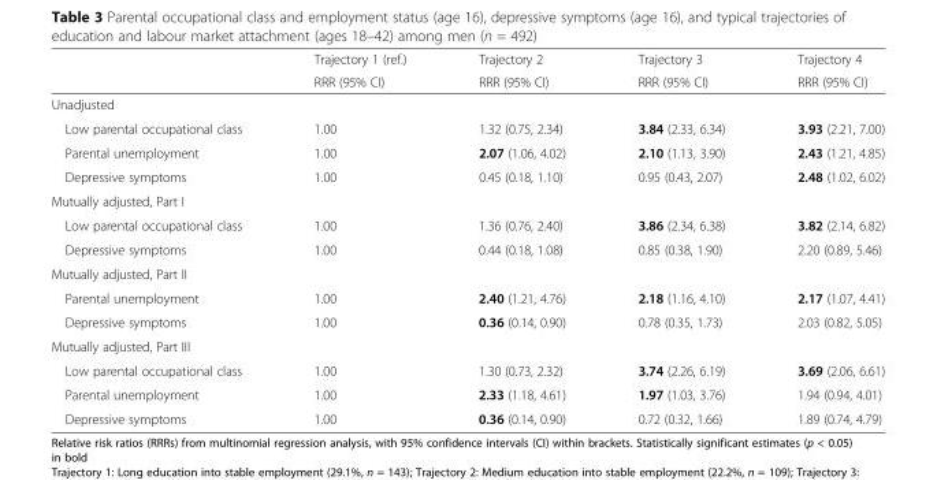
<table><thead><tr><td rowspan="2"></td><td rowspan="2">Trajectory 1 (ref.) RRR (95% CI)</td><td rowspan="2">Trajectory 2 RRR (95% CI)</td><td rowspan="2">Trajectory 3 RRR (95% CI)</td><td rowspan="2">Trajectory 4 RRR (95% CI)</td></tr><tr></tr></thead><tbody><tr><td colspan="5">Unadjusted</td></tr><tr><td>Low parental occupational class</td><td>1.00</td><td>1.32 (0.75, 2.34)</td><td>3.84 (2.33, 6.34)</td><td>3.93 (2.21, 7.00)</td></tr><tr><td>Parental unemployment</td><td>1.00</td><td>2.07 (1.06, 4.02)</td><td>2.10 (1.13, 3.90)</td><td>2.43 (1.21, 4.85)</td></tr><tr><td>Depressive symptoms</td><td>1.00</td><td>0.45 (0.18, 1.10)</td><td>0.95 (0.43, 2.07)</td><td>2.48 (1.02, 6.02)</td></tr><tr><td colspan="5">Mutually adjusted, Part I</td></tr><tr><td>Low parental occupational class</td><td>1.00</td><td>1.36 (0.76, 2.40)</td><td>3.86 (2.34, 6.38)</td><td>3.82 (2.14, 6.82)</td></tr><tr><td>Depressive symptoms</td><td>1.00</td><td>0.44 (0.18, 1.08)</td><td>0.85 (0.38, 1.90)</td><td>2.20 (0.89, 5.46)</td></tr><tr><td colspan="5">Mutually adjusted, Part II</td></tr><tr><td>Parental unemployment</td><td>1.00</td><td>2.40 (1.21, 4.76)</td><td>2.18 (1.16, 4.10)</td><td>2.17 (1.07, 4.41)</td></tr><tr><td>Depressive symptoms</td><td>1.00</td><td>0.36 (0.14, 0.90)</td><td>0.78 (0.35, 1.73)</td><td>2.03 (0.82, 5.05)</td></tr><tr><td colspan="5">Mutually adjusted, Part III</td></tr><tr><td>Low parental occupational class</td><td>1.00</td><td>1.30 (0.73, 2.32)</td><td>3.74 (2.26, 6.19)</td><td>3.69 (2.06, 6.61)</td></tr><tr><td>Parental unemployment</td><td>1.00</td><td>2.33 (1.18, 4.61)</td><td>1.97 (1.03, 3.76)</td><td>1.94 (0.94, 4.01)</td></tr><tr><td>Depressive symptoms</td><td>1.00</td><td>0.36 (0.14, 0.90)</td><td>0.72 (0.32, 1.66)</td><td>1.89 (0.74, 4.79)</td></tr></tbody></table>